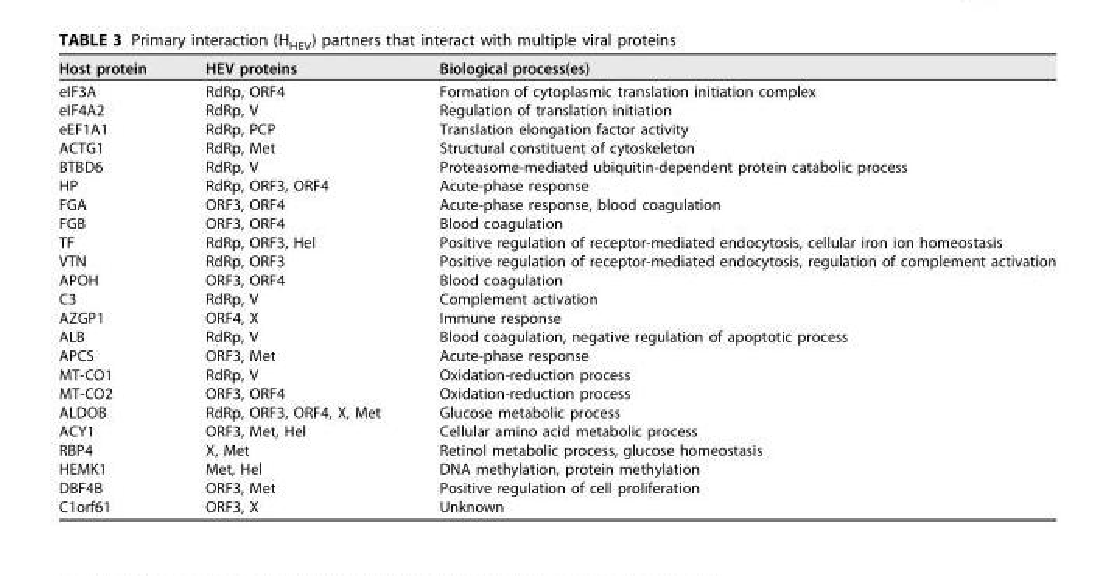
<table><thead><tr><td>Host protein</td><td>HEV proteins</td><td>Biological process(es)</td></tr></thead><tbody><tr><td>eIF3A</td><td>RdRp, ORF4</td><td>Formation of cytoplasmic translation initiation complex</td></tr><tr><td>eIF4A2</td><td>RdRp, V</td><td>Regulation of translation initiation</td></tr><tr><td>eEF1A1</td><td>RdRp, PCP</td><td>Translation elongation factor activity</td></tr><tr><td>ACTG1</td><td>RdRp, Met</td><td>Structural constituent of cytoskeleton</td></tr><tr><td>BTBD6</td><td>RdRp, V</td><td>Proteasome-mediated ubiquitin-dependent protein catabolic process</td></tr><tr><td>HP</td><td>RdRp, ORF3, ORF4</td><td>Acute-phase response</td></tr><tr><td>FGA</td><td>ORF3, ORF4</td><td>Acute-phase response, blood coagulation</td></tr><tr><td>FGB</td><td>ORF3, ORF4</td><td>Blood coagulation</td></tr><tr><td>TF</td><td>RdRp, ORF3, Hel</td><td>Positive regulation of receptor-mediated endocytosis, cellular iron ion homeostasis</td></tr><tr><td>VTN</td><td>RdRp, ORF3</td><td>Positive regulation of receptor-mediated endocytosis, regulation of complement activation</td></tr><tr><td>APOH</td><td>ORF3, ORF4</td><td>Blood coagulation</td></tr><tr><td>C3</td><td>RdRp, V</td><td>Complement activation</td></tr><tr><td>AZGP1</td><td>ORF4, X</td><td>Immune response</td></tr><tr><td>ALB</td><td>RdRp, V</td><td>Blood coagulation, negative regulation of apoptotic process</td></tr><tr><td>APCS</td><td>ORF3, Met</td><td>Acute-phase response</td></tr><tr><td>MT-CO1</td><td>RdRp, V</td><td>Oxidation-reduction process</td></tr><tr><td>MT-CO2</td><td>ORF3, ORF4</td><td>Oxidation-reduction process</td></tr><tr><td>ALDOB</td><td>RdRp, ORF3, ORF4, X, Met</td><td>Glucose metabolic process</td></tr><tr><td>ACY1</td><td>ORF3, Met, Hel</td><td>Cellular amino acid metabolic process</td></tr><tr><td>RBP4</td><td>X, Met</td><td>Retinol metabolic process, glucose homeostasis</td></tr><tr><td>HEMK1</td><td>Met, Hel</td><td>DNA methylation, protein methylation</td></tr><tr><td>DBF4B</td><td>ORF3, Met</td><td>Positive regulation of cell proliferation</td></tr><tr><td>C1orf61</td><td>ORF3, X</td><td>Unknown</td></tr></tbody></table>